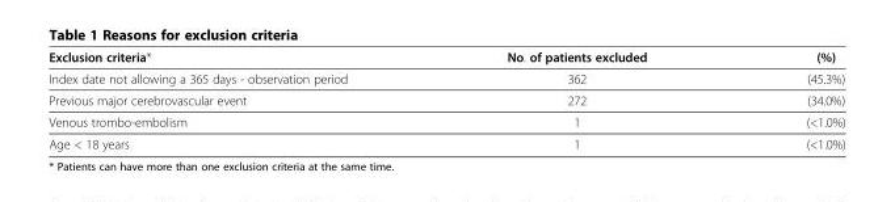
<table><thead><tr><td>Exclusion criteria*</td><td>No. of patients excluded</td><td>(%)</td></tr></thead><tbody><tr><td>Index date not allowing a 365 days - observation period</td><td>362</td><td>(45.3%)</td></tr><tr><td>Previous major cerebrovascular event</td><td>272</td><td>(34.0%)</td></tr><tr><td>Venous trombo-embolism</td><td>1</td><td>(&lt;1.0%)</td></tr><tr><td>Age &lt; 18 years</td><td>1</td><td>(&lt;1.0%)</td></tr></tbody></table>